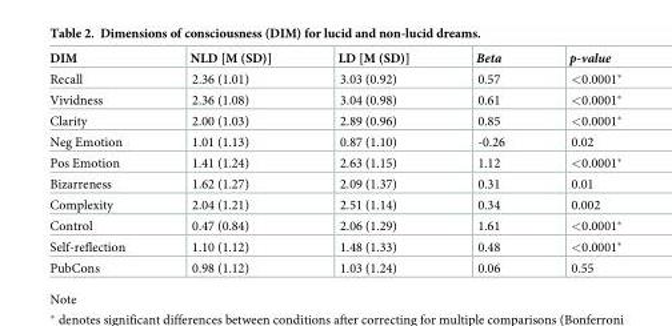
<table><thead><tr><td>DIM</td><td>NLD [M (SD)]</td><td>LD [M (SD)]</td><td>Beta</td><td>p-value</td></tr></thead><tbody><tr><td>Recall</td><td>2.36 (1.01)</td><td>3.03 (0.92)</td><td>0.57</td><td>&lt;0.0001*</td></tr><tr><td>Vividness</td><td>2.36 (1.08)</td><td>3.04 (0.98)</td><td>0.61</td><td>&lt;0.0001*</td></tr><tr><td>Clarity</td><td>2.00 (1.03)</td><td>2.89 (0.96)</td><td>0.85</td><td>&lt;0.0001*</td></tr><tr><td>Neg Emotion</td><td>1.01 (1.13)</td><td>0.87 (1.10)</td><td>-0.26</td><td>0.02</td></tr><tr><td>Pos Emotion</td><td>1.41 (1.24)</td><td>2.63 (1.15)</td><td>1.12</td><td>&lt;0.0001*</td></tr><tr><td>Bizarreness</td><td>1.62 (1.27)</td><td>2.09 (1.37)</td><td>0.31</td><td>0.01</td></tr><tr><td>Complexity</td><td>2.04 (1.21)</td><td>2.51 (1.14)</td><td>0.34</td><td>0.002</td></tr><tr><td>Control</td><td>0.47 (0.84)</td><td>2.06 (1.29)</td><td>1.61</td><td>&lt;0.0001*</td></tr><tr><td>Self-reflection</td><td>1.10 (1.12)</td><td>1.48 (1.33)</td><td>0.48</td><td>&lt;0.0001*</td></tr><tr><td>PubCons</td><td>0.98 (1.12)</td><td>1.03 (1.24)</td><td>0.06</td><td>0.55</td></tr></tbody></table>